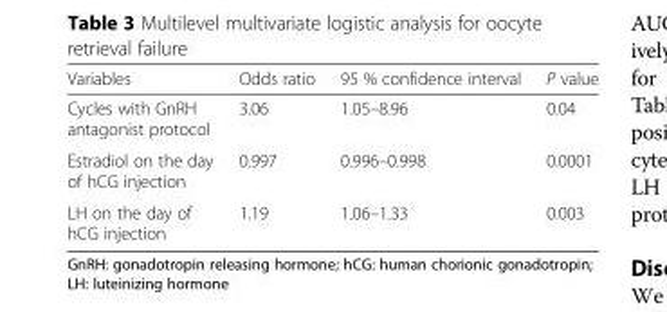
<table><thead><tr><td>Variables</td><td>Odds ratio</td><td>95 % confidence interval</td><td>P value</td></tr></thead><tbody><tr><td>Cycles with GnRH antagonist protocol</td><td>3.06</td><td>1.05–8.96</td><td>0.04</td></tr><tr><td>Estradiol on the day of hCG injection</td><td>0.997</td><td>0.996–0.998</td><td>0.0001</td></tr><tr><td>LH on the day of hCG injection</td><td>1.19</td><td>1.06–1.33</td><td>0.003</td></tr></tbody></table>